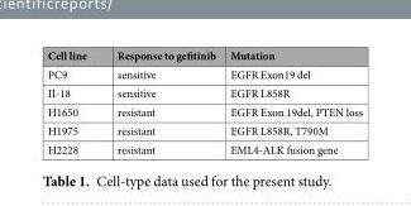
<table><thead><tr><td>Cell line</td><td>Response to gefitinib</td><td>Mutation</td></tr></thead><tbody><tr><td>PC9</td><td>sensitive</td><td>EGFR Exon19 del</td></tr><tr><td>II-18</td><td>sensitive</td><td>EGFR L858R</td></tr><tr><td>H1650</td><td>resistant</td><td>EGFR Exon 19del, PTEN loss</td></tr><tr><td>H1975</td><td>resistant</td><td>EGFR L858R, T790M</td></tr><tr><td>H2228</td><td>resistant</td><td>EML4-ALK fusion gene</td></tr></tbody></table>